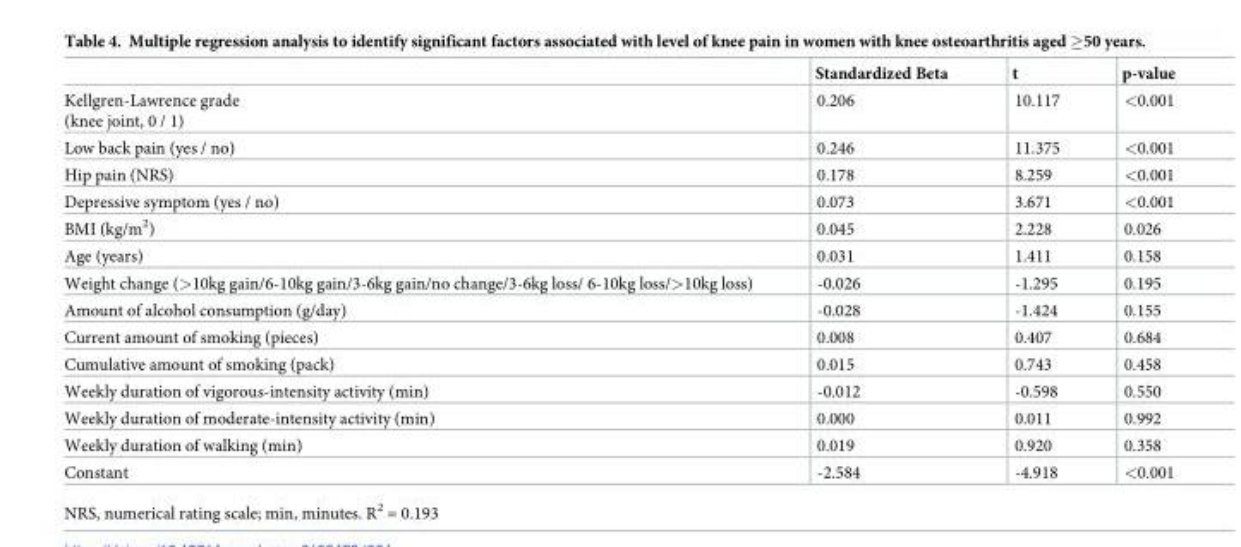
<table><thead><tr><td></td><td>Standardized Beta</td><td>t</td><td>p-value</td></tr></thead><tbody><tr><td>Kellgren-Lawrence grade (knee joint, 0 / 1)</td><td>0.206</td><td>10.117</td><td>&lt;0.001</td></tr><tr><td>Low back pain (yes / no)</td><td>0.246</td><td>11.375</td><td>&lt;0.001</td></tr><tr><td>Hip pain (NRS)</td><td>0.178</td><td>8.259</td><td>&lt;0.001</td></tr><tr><td>Depressive symptom (yes / no)</td><td>0.073</td><td>3.671</td><td>&lt;0.001</td></tr><tr><td>BMI (kg/m<sup>2</sup>)</td><td>0.045</td><td>2.228</td><td>0.026</td></tr><tr><td>Age (years)</td><td>0.031</td><td>1.411</td><td>0.158</td></tr><tr><td>Weight change (&gt;10kg gain/6-10kg gain/3-6kg gain/no change/3-6kg loss/ 6-10kg loss/&gt;10kg loss)</td><td>-0.026</td><td>-1.295</td><td>0.195</td></tr><tr><td>Amount of alcohol consumption (g/day)</td><td>-0.028</td><td>-1.424</td><td>0.155</td></tr><tr><td>Current amount of smoking (pieces)</td><td>0.008</td><td>0.407</td><td>0.684</td></tr><tr><td>Cumulative amount of smoking (pack)</td><td>0.015</td><td>0.743</td><td>0.458</td></tr><tr><td>Weekly duration of vigorous-intensity activity (min)</td><td>-0.012</td><td>-0.598</td><td>0.550</td></tr><tr><td>Weekly duration of moderate-intensity activity (min)</td><td>0.000</td><td>0.011</td><td>0.992</td></tr><tr><td>Weekly duration of walking (min)</td><td>0.019</td><td>0.920</td><td>0.358</td></tr><tr><td>Constant</td><td>-2.584</td><td>-4.918</td><td>&lt;0.001</td></tr></tbody></table>